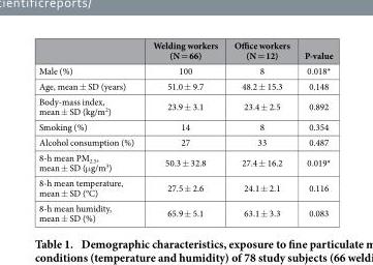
<table><thead><tr><td></td><td>Welding workers (N = 66)</td><td>Office workers (N = 12)</td><td>P-value</td></tr></thead><tbody><tr><td>Male (%)</td><td>100</td><td>8</td><td>0.018*</td></tr><tr><td>Age, mean ± SD (years)</td><td>51.0 ± 9.7</td><td>48.2 ± 15.3</td><td>0.148</td></tr><tr><td>Body-mass index, mean ± SD (kg/m<sup>2</sup>)</td><td>23.9 ± 3.1</td><td>23.4 ± 2.5</td><td>0.892</td></tr><tr><td>Smoking (%)</td><td>14</td><td>8</td><td>0.354</td></tr><tr><td>Alcohol consumption (%)</td><td>27</td><td>33</td><td>0.487</td></tr><tr><td>8-h mean PM<sub>2.5</sub>, mean ± SD (μ g/m<sup>3</sup>)</td><td>50.3 ± 32.8</td><td>27.4 ± 16.2</td><td>0.019*</td></tr><tr><td>8-h mean temperature, mean ± SD (°C)</td><td>27.5 ± 2.6</td><td>24.1 ± 2.1</td><td>0.116</td></tr><tr><td>8-h mean humidity, mean ± SD (%)</td><td>65.9 ± 5.1</td><td>63.1 ± 3.3</td><td>0.083</td></tr></tbody></table>